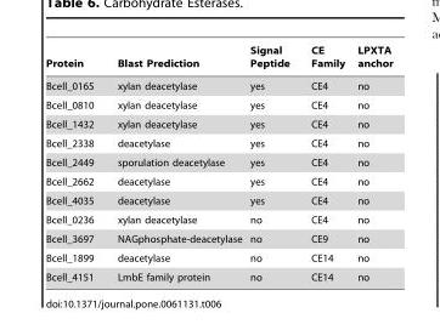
<table><thead><tr><td>Protein</td><td>Blast Prediction</td><td>Signal Peptide</td><td>CE Family</td><td>LPXTA anchor</td></tr></thead><tbody><tr><td>Bcell_0165</td><td>xylan deacetylase</td><td>yes</td><td>CE4</td><td>no</td></tr><tr><td>Bcell_0810</td><td>xylan deacetylase</td><td>yes</td><td>CE4</td><td>no</td></tr><tr><td>Bcell_1432</td><td>xylan deacetylase</td><td>yes</td><td>CE4</td><td>no</td></tr><tr><td>Bcell_2338</td><td>deacetylase</td><td>yes</td><td>CE4</td><td>no</td></tr><tr><td>Bcell_2449</td><td>sporulation deacetylase</td><td>yes</td><td>CE4</td><td>no</td></tr><tr><td>Bcell_2662</td><td>deacetylase</td><td>yes</td><td>CE4</td><td>no</td></tr><tr><td>Bcell_4035</td><td>deacetylase</td><td>yes</td><td>CE4</td><td>no</td></tr><tr><td>Bcell_0236</td><td>xylan deacetylase</td><td>no</td><td>CE4</td><td>no</td></tr><tr><td>Bcell_3697</td><td>NAGphosphate-deacetylase</td><td>no</td><td>CE9</td><td>no</td></tr><tr><td>Bcell_1899</td><td>deacetylase</td><td>no</td><td>CE14</td><td>no</td></tr><tr><td>Bcell_4151</td><td>LmbE family protein</td><td>no</td><td>CE14</td><td>no</td></tr></tbody></table>